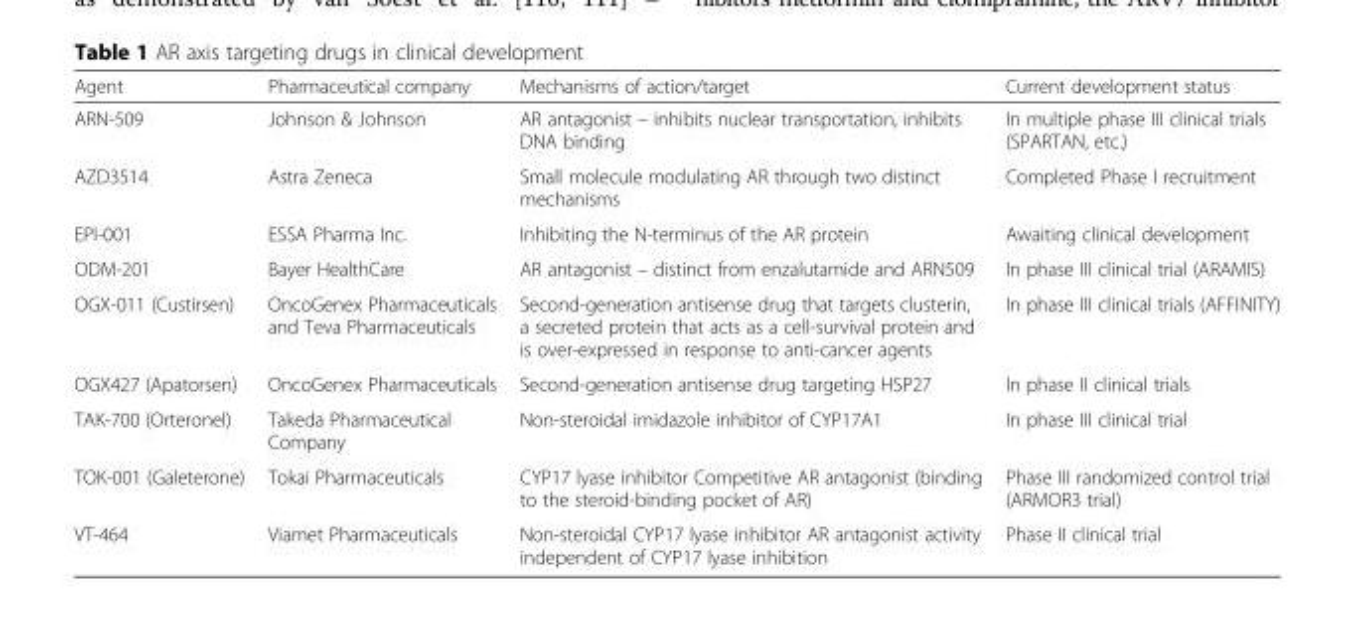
<table><thead><tr><td>Agent</td><td>Pharmaceutical company</td><td>Mechanisms of action/target</td><td>Current development status</td></tr></thead><tbody><tr><td>ARN-509</td><td>Johnson &amp; Johnson</td><td>AR antagonist – inhibits nuclear transportation, inhibits DNA binding</td><td>In multiple phase III clinical trials (SPARTAN, etc.)</td></tr><tr><td>AZD3514</td><td>Astra Zeneca</td><td>Small molecule modulating AR through two distinct mechanisms</td><td>Completed Phase I recruitment</td></tr><tr><td>EPI-001</td><td>ESSA Pharma Inc.</td><td>Inhibiting the N-terminus of the AR protein</td><td>Awaiting clinical development</td></tr><tr><td>ODM-201</td><td>Bayer HealthCare</td><td>AR antagonist – distinct from enzalutamide and ARN509</td><td>In phase III clinical trial (ARAMIS)</td></tr><tr><td>OGX-011 (Custirsen)</td><td>OncoGenex Pharmaceuticals and Teva Pharmaceuticals</td><td>Second-generation antisense drug that targets clusterin, a secreted protein that acts as a cell-survival protein and is over-expressed in response to anti-cancer agents</td><td>In phase III clinical trials (AFFINITY)</td></tr><tr><td>OGX427 (Apatorsen)</td><td>OncoGenex Pharmaceuticals</td><td>Second-generation antisense drug targeting HSP27</td><td>In phase II clinical trials</td></tr><tr><td>TAK-700 (Orteronel)</td><td>Takeda Pharmaceutical Company</td><td>Non-steroidal imidazole inhibitor of CYP17A1</td><td>In phase III clinical trial</td></tr><tr><td>TOK-001 (Galeterone)</td><td>Tokai Pharmaceuticals</td><td>CYP17 lyase inhibitor Competitive AR antagonist (binding to the steroid-binding pocket of AR)</td><td>Phase III randomized control trial (ARMOR3 trial)</td></tr><tr><td>VT-464</td><td>Viamet Pharmaceuticals</td><td>Non-steroidal CYP17 lyase inhibitor AR antagonist activity independent of CYP17 lyase inhibition</td><td>Phase II clinical trial</td></tr></tbody></table>